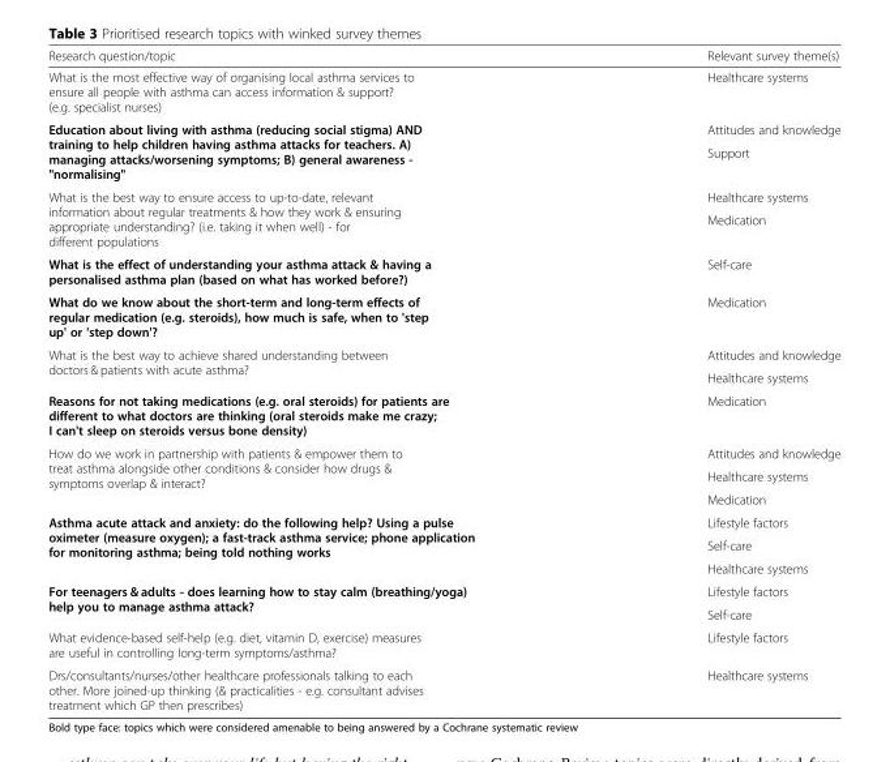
<table><thead><tr><td>Research question/topic</td><td>Relevant survey theme(s)</td></tr></thead><tbody><tr><td>What is the most effective way of organising local asthma services to ensure all people with asthma can access information &amp; support? (e.g. specialist nurses)</td><td>Healthcare systems</td></tr><tr><td rowspan="2">Education about living with asthma (reducing social stigma) AND training to help children having asthma attacks for teachers. A) managing attacks/worsening symptoms; B) general awareness - &quot;normalising&quot;</td><td>Attitudes and knowledge</td></tr><tr><td>Support</td></tr><tr><td rowspan="2">What is the best way to ensure access to up-to-date, relevant information about regular treatments &amp; how they work &amp; ensuring appropriate understanding? (i.e. taking it when well) - for different populations</td><td>Healthcare systems</td></tr><tr><td>Medication</td></tr><tr><td>What is the effect of understanding your asthma attack &amp; having a personalised asthma plan (based on what has worked before?)</td><td>Self-care</td></tr><tr><td>What do we know about the short-term and long-term effects of regular medication (e.g. steroids), how much is safe, when to &#x27;step up&#x27; or &#x27;step down&#x27;?</td><td>Medication</td></tr><tr><td rowspan="2">What is the best way to achieve shared understanding between doctors &amp; patients with acute asthma?</td><td>Attitudes and knowledge</td></tr><tr><td>Healthcare systems</td></tr><tr><td>Reasons for not taking medications (e.g. oral steroids) for patients are different to what doctors are thinking (oral steroids make me crazy; I can&#x27;t sleep on steroids versus bone density)</td><td>Medication</td></tr><tr><td rowspan="3">How do we work in partnership with patients &amp; empower them to treat asthma alongside other conditions &amp; consider how drugs &amp; symptoms overlap &amp; interact?</td><td>Attitudes and knowledge</td></tr><tr><td>Healthcare systems</td></tr><tr><td>Medication</td></tr><tr><td rowspan="3">Asthma acute attack and anxiety: do the following help? Using a pulse oximeter (measure oxygen); a fast-track asthma service; phone application for monitoring asthma; being told nothing works</td><td>Lifestyle factors</td></tr><tr><td>Self-care</td></tr><tr><td>Healthcare systems</td></tr><tr><td rowspan="2">For teenagers &amp; adults - does learning how to stay calm (breathing/yoga) help you to manage asthma attack?</td><td>Lifestyle factors</td></tr><tr><td>Self-care</td></tr><tr><td>What evidence-based self-help (e.g. diet, vitamin D, exercise) measures are useful in controlling long-term symptoms/asthma?</td><td>Lifestyle factors</td></tr><tr><td>Drs/consultants/nurses/other healthcare professionals talking to each other. More joined-up thinking (&amp; practicalities - e.g. consultant advises treatment which GP then prescribes)</td><td>Healthcare systems</td></tr></tbody></table>